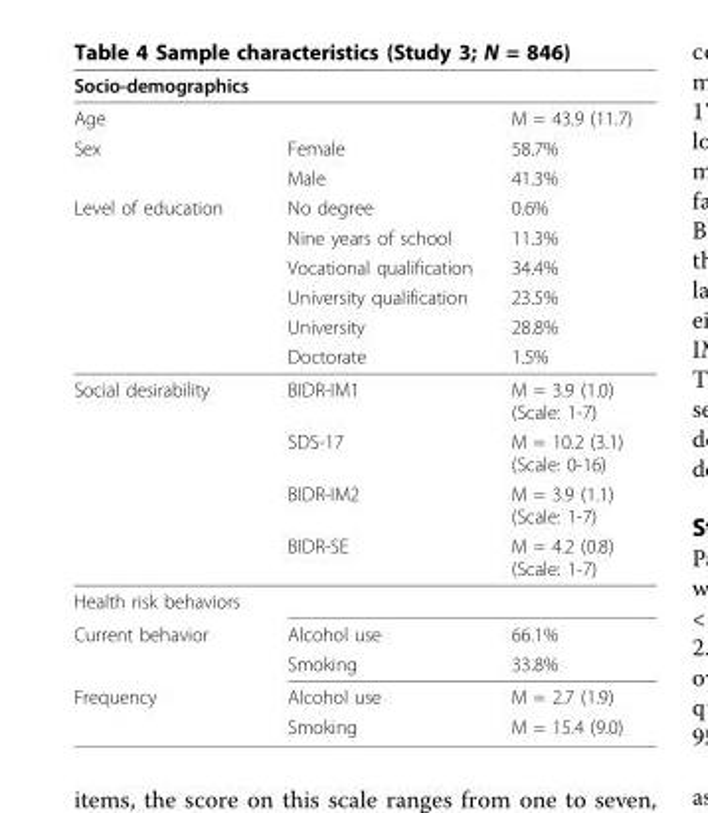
<table><thead><tr><td>Socio-demographics</td><td></td><td></td></tr></thead><tbody><tr><td>Age</td><td></td><td>M = 43.9 (11.7)</td></tr><tr><td rowspan="2">Sex</td><td>Female</td><td>58.7%</td></tr><tr><td>Male</td><td>41.3%</td></tr><tr><td rowspan="6">Level of education</td><td>No degree</td><td>0.6%</td></tr><tr><td>Nine years of school</td><td>11.3%</td></tr><tr><td>Vocational qualification</td><td>34.4%</td></tr><tr><td>University qualification</td><td>23.5%</td></tr><tr><td>University</td><td>28.8%</td></tr><tr><td>Doctorate</td><td>1.5%</td></tr><tr><td rowspan="4">Social desirability</td><td>BIDR-IM1</td><td>M = 3.9 (1.0) (Scale: 1-7)</td></tr><tr><td>SDS-17</td><td>M = 10.2 (3.1) (Scale: 0-16)</td></tr><tr><td>BIDR-IM2</td><td>M = 3.9 (1.1) (Scale: 1-7)</td></tr><tr><td>BIDR-SE</td><td>M = 4.2 (0.8) (Scale: 1-7)</td></tr><tr><td colspan="3">Health risk behaviors</td></tr><tr><td rowspan="2">Current behavior</td><td>Alcohol use</td><td>66.1%</td></tr><tr><td>Smoking</td><td>33.8%</td></tr><tr><td rowspan="2">Frequency</td><td>Alcohol use</td><td>M = 2.7 (1.9)</td></tr><tr><td>Smoking</td><td>M = 15.4 (9.0)</td></tr></tbody></table>